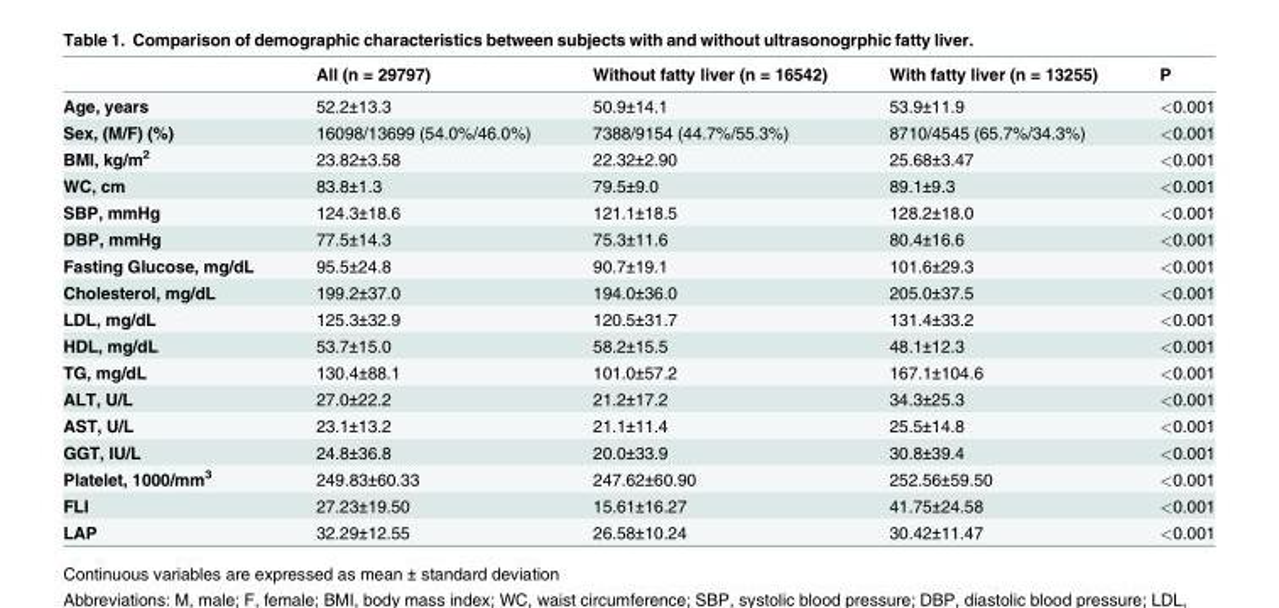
<table><thead><tr><td></td><td>All (n = 29797)</td><td>Without fatty liver (n = 16542)</td><td>With fatty liver (n = 13255)</td><td>P</td></tr></thead><tbody><tr><td>Age, years</td><td>52.2±13.3</td><td>50.9±14.1</td><td>53.9±11.9</td><td>&lt;0.001</td></tr><tr><td>Sex, (M/F) (%)</td><td>16098/13699 (54.0%/46.0%)</td><td>7388/9154 (44.7%/55.3%)</td><td>8710/4545 (65.7%/34.3%)</td><td>&lt;0.001</td></tr><tr><td>BMI, kg/m<sup>2</sup></td><td>23.82±3.58</td><td>22.32±2.90</td><td>25.68±3.47</td><td>&lt;0.001</td></tr><tr><td>WC, cm</td><td>83.8±1.3</td><td>79.5±9.0</td><td>89.1±9.3</td><td>&lt;0.001</td></tr><tr><td>SBP, mmHg</td><td>124.3±18.6</td><td>121.1±18.5</td><td>128.2±18.0</td><td>&lt;0.001</td></tr><tr><td>DBP, mmHg</td><td>77.5±14.3</td><td>75.3±11.6</td><td>80.4±16.6</td><td>&lt;0.001</td></tr><tr><td>Fasting Glucose, mg/dL</td><td>95.5±24.8</td><td>90.7±19.1</td><td>101.6±29.3</td><td>&lt;0.001</td></tr><tr><td>Cholesterol, mg/dL</td><td>199.2±37.0</td><td>194.0±36.0</td><td>205.0±37.5</td><td>&lt;0.001</td></tr><tr><td>LDL, mg/dL</td><td>125.3±32.9</td><td>120.5±31.7</td><td>131.4±33.2</td><td>&lt;0.001</td></tr><tr><td>HDL, mg/dL</td><td>53.7±15.0</td><td>58.2±15.5</td><td>48.1±12.3</td><td>&lt;0.001</td></tr><tr><td>TG, mg/dL</td><td>130.4±88.1</td><td>101.0±57.2</td><td>167.1±104.6</td><td>&lt;0.001</td></tr><tr><td>ALT, U/L</td><td>27.0±22.2</td><td>21.2±17.2</td><td>34.3±25.3</td><td>&lt;0.001</td></tr><tr><td>AST, U/L</td><td>23.1±13.2</td><td>21.1±11.4</td><td>25.5±14.8</td><td>&lt;0.001</td></tr><tr><td>GGT, IU/L</td><td>24.8±36.8</td><td>20.0±33.9</td><td>30.8±39.4</td><td>&lt;0.001</td></tr><tr><td>Platelet, 1000/mm<sup>3</sup></td><td>249.83±60.33</td><td>247.62±60.90</td><td>252.56±59.50</td><td>&lt;0.001</td></tr><tr><td>FLI</td><td>27.23±19.50</td><td>15.61±16.27</td><td>41.75±24.58</td><td>&lt;0.001</td></tr><tr><td>LAP</td><td>32.29±12.55</td><td>26.58±10.24</td><td>30.42±11.47</td><td>&lt;0.001</td></tr></tbody></table>